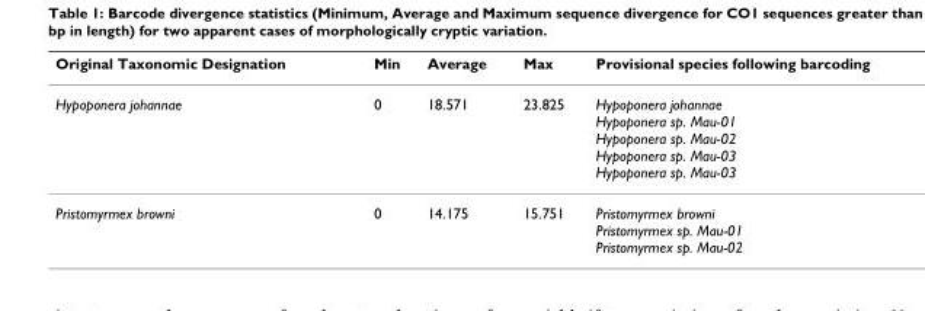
<table><thead><tr><td>Original Taxonomic Designation</td><td>Min</td><td>Average</td><td>Max</td><td>Provisional species following barcoding</td></tr></thead><tbody><tr><td>Hypoponera johannae</td><td>0</td><td>18.571</td><td>23.825</td><td>Hypoponera johannae Hypoponera sp. Mau-01 Hypoponera sp. Mau-02 Hypoponera sp. Mau-03 Hypoponera sp. Mau-03</td></tr><tr><td>Pristomyrmex browni</td><td>0</td><td>14.175</td><td>15.751</td><td>Pristomyrmex browni Pristomyrmex sp. Mau-01 Pristomyrmex sp. Mau-02</td></tr></tbody></table>